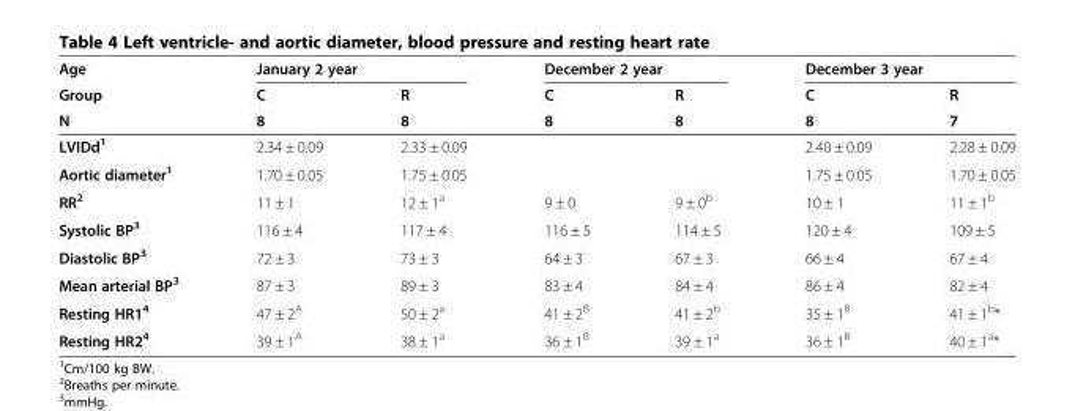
<table><thead><tr><td rowspan="3">Age Group N</td><td colspan="2">January 2 year</td><td colspan="2">December 2 year</td><td colspan="2">December 3 year</td></tr><tr><td rowspan="2">C 8</td><td rowspan="2">R 8</td><td rowspan="2">C 8</td><td rowspan="2">R 8</td><td rowspan="2">C 8</td><td rowspan="2">R 7</td></tr><tr></tr></thead><tbody><tr><td>LVIDd<sup>1</sup></td><td>2.34 ± 0.09</td><td>2.33 ± 0.09</td><td></td><td></td><td>2.40 ± 0.09</td><td>2.28 ± 0.09</td></tr><tr><td>Aortic diameter<sup>1</sup></td><td>1.70 ± 0.05</td><td>1.75 ± 0.05</td><td></td><td></td><td>1.75 ± 0.05</td><td>1.70 ± 0.05</td></tr><tr><td>RR<sup>2</sup></td><td>11 ± 1</td><td>12 ± 1<sup>a</sup></td><td>9 ± 0</td><td>9 ± 0<sup>b</sup></td><td>10 ± 1</td><td>11 ± 1<sup>b</sup></td></tr><tr><td>Systolic BP<sup>3</sup></td><td>116 ± 4</td><td>117 ± 4</td><td>116 ± 5</td><td>114 ± 5</td><td>120 ± 4</td><td>109 ± 5</td></tr><tr><td>Diastolic BP<sup>3</sup></td><td>72 ± 3</td><td>73 ± 3</td><td>64 ± 3</td><td>67 ± 3</td><td>66 ± 4</td><td>67 ± 4</td></tr><tr><td>Mean arterial BP<sup>3</sup></td><td>87 ± 3</td><td>89 ± 3</td><td>83 ± 4</td><td>84 ± 4</td><td>86 ± 4</td><td>82 ± 4</td></tr><tr><td>Resting HR1<sup>4</sup></td><td>47 ± 2<sup>A</sup></td><td>50 ± 2<sup>a</sup></td><td>41 ± 2<sup>B</sup></td><td>41 ± 2<sup>b</sup></td><td>35 ± 1<sup>B</sup></td><td>41 ± 1<sup>b</sup>*</td></tr><tr><td>Resting HR2<sup>4</sup></td><td>39 ± 1<sup>A</sup></td><td>38 ± 1<sup>a</sup></td><td>36 ± 1<sup>B</sup></td><td>39 ± 1<sup>a</sup></td><td>36 ± 1<sup>B</sup></td><td>40 ± 1<sup>a</sup>*</td></tr></tbody></table>